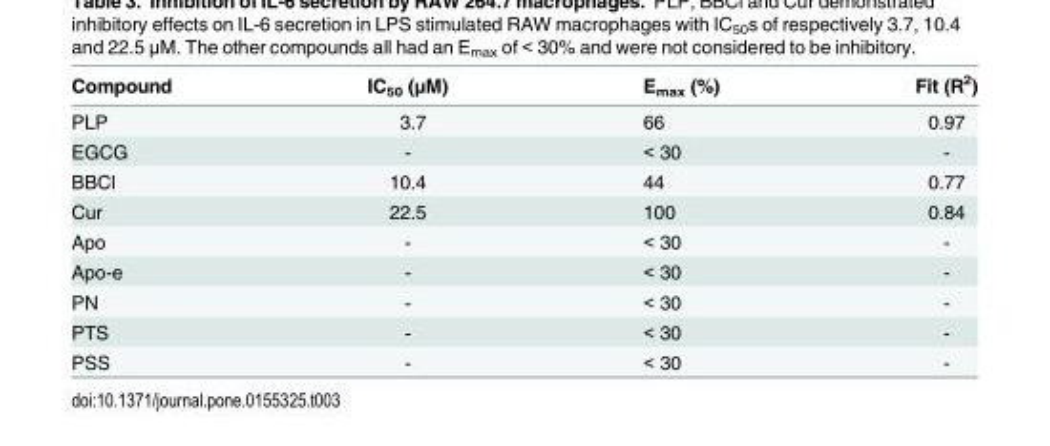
<table><thead><tr><td>Compound</td><td>IC<sub>50</sub> (μM)</td><td>E<sub>max</sub> (%)</td><td>Fit (R<sup>2</sup>)</td></tr></thead><tbody><tr><td>PLP</td><td>3.7</td><td>66</td><td>0.97</td></tr><tr><td>EGCG</td><td>-</td><td>&lt; 30</td><td>-</td></tr><tr><td>BBCl</td><td>10.4</td><td>44</td><td>0.77</td></tr><tr><td>Cur</td><td>22.5</td><td>100</td><td>0.84</td></tr><tr><td>Apo</td><td>-</td><td>&lt; 30</td><td>-</td></tr><tr><td>Apo-e</td><td>-</td><td>&lt; 30</td><td>-</td></tr><tr><td>PN</td><td>-</td><td>&lt; 30</td><td>-</td></tr><tr><td>PTS</td><td>-</td><td>&lt; 30</td><td>-</td></tr><tr><td>PSS</td><td>-</td><td>&lt; 30</td><td>-</td></tr></tbody></table>